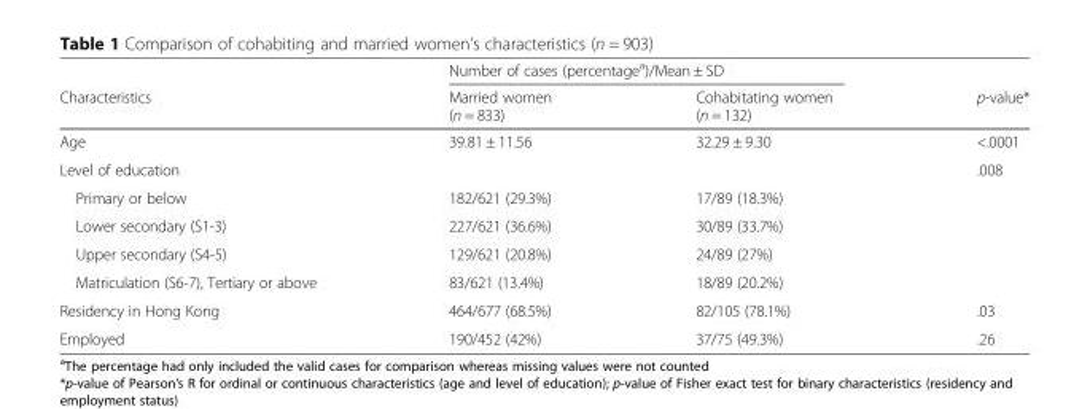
<table><thead><tr><td rowspan="2">Characteristics</td><td colspan="2">Number of cases (percentage<sup>a</sup>)/Mean ± SD</td><td rowspan="2">p-value*</td></tr><tr><td>Married women (n = 833)</td><td>Cohabitating women (n = 132)</td></tr></thead><tbody><tr><td>Age</td><td>39.81 ± 11.56</td><td>32.29 ± 9.30</td><td>&lt;.0001</td></tr><tr><td colspan="3">Level of education</td><td>.008</td></tr><tr><td>Primary or below</td><td>182/621 (29.3%)</td><td>17/89 (18.3%)</td><td></td></tr><tr><td>Lower secondary (S1-3)</td><td>227/621 (36.6%)</td><td>30/89 (33.7%)</td><td></td></tr><tr><td>Upper secondary (S4-5)</td><td>129/621 (20.8%)</td><td>24/89 (27%)</td><td></td></tr><tr><td>Matriculation (S6-7), Tertiary or above</td><td>83/621 (13.4%)</td><td>18/89 (20.2%)</td><td></td></tr><tr><td>Residency in Hong Kong</td><td>464/677 (68.5%)</td><td>82/105 (78.1%)</td><td>.03</td></tr><tr><td>Employed</td><td>190/452 (42%)</td><td>37/75 (49.3%)</td><td>.26</td></tr></tbody></table>